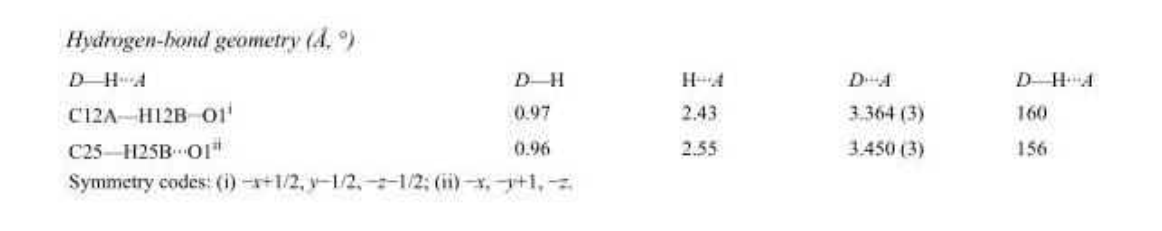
<table><tbody><tr><td>D—H···A</td><td>D—H</td><td>H···A</td><td>D···A</td><td>D—H···A</td></tr><tr><td>C12A—H12B···O1<sup>i</sup></td><td>0.97</td><td>2.43</td><td>3.364 (3)</td><td>160</td></tr><tr><td>C25—H25B···O1<sup>ii</sup></td><td>0.96</td><td>2.55</td><td>3.450 (3)</td><td>156</td></tr></tbody></table>